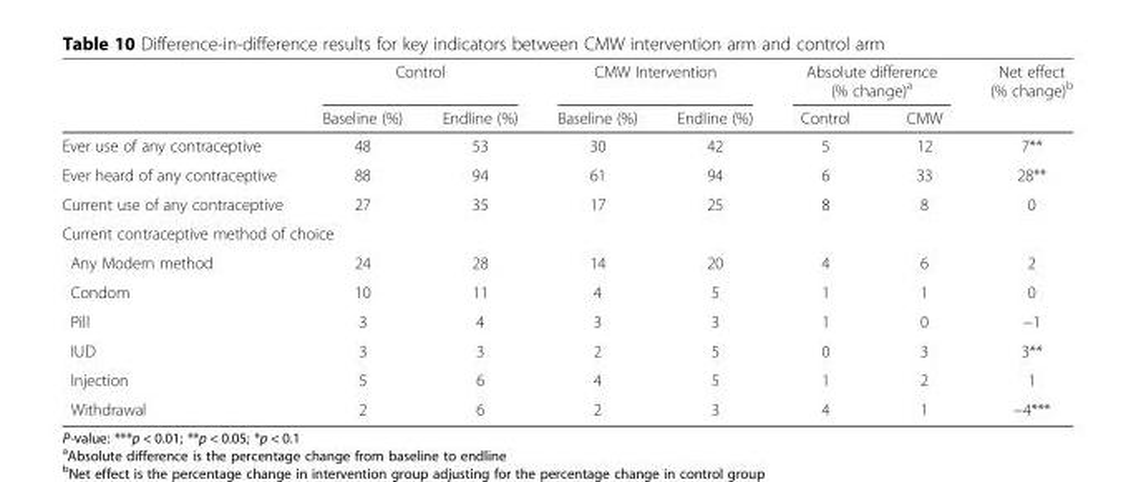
<table><thead><tr><td rowspan="2"></td><td colspan="2">Control</td><td colspan="2">CMW Intervention</td><td colspan="2">Absolute difference (% change)<sup>a</sup></td><td rowspan="2">Net effect (% change)<sup>b</sup></td></tr><tr><td>Baseline (%)</td><td>Endline (%)</td><td>Baseline (%)</td><td>Endline (%)</td><td>Control</td><td>CMW</td></tr></thead><tbody><tr><td>Ever use of any contraceptive</td><td>48</td><td>53</td><td>30</td><td>42</td><td>5</td><td>12</td><td>7**</td></tr><tr><td>Ever heard of any contraceptive</td><td>88</td><td>94</td><td>61</td><td>94</td><td>6</td><td>33</td><td>28**</td></tr><tr><td>Current use of any contraceptive</td><td>27</td><td>35</td><td>17</td><td>25</td><td>8</td><td>8</td><td>0</td></tr><tr><td colspan="8">Current contraceptive method of choice</td></tr><tr><td>Any Modern method</td><td>24</td><td>28</td><td>14</td><td>20</td><td>4</td><td>6</td><td>2</td></tr><tr><td>Condom</td><td>10</td><td>11</td><td>4</td><td>5</td><td>1</td><td>1</td><td>0</td></tr><tr><td>Pill</td><td>3</td><td>4</td><td>3</td><td>3</td><td>1</td><td>0</td><td>−1</td></tr><tr><td>IUD</td><td>3</td><td>3</td><td>2</td><td>5</td><td>0</td><td>3</td><td>3**</td></tr><tr><td>Injection</td><td>5</td><td>6</td><td>4</td><td>5</td><td>1</td><td>2</td><td>1</td></tr><tr><td>Withdrawal</td><td>2</td><td>6</td><td>2</td><td>3</td><td>4</td><td>1</td><td>−4***</td></tr></tbody></table>